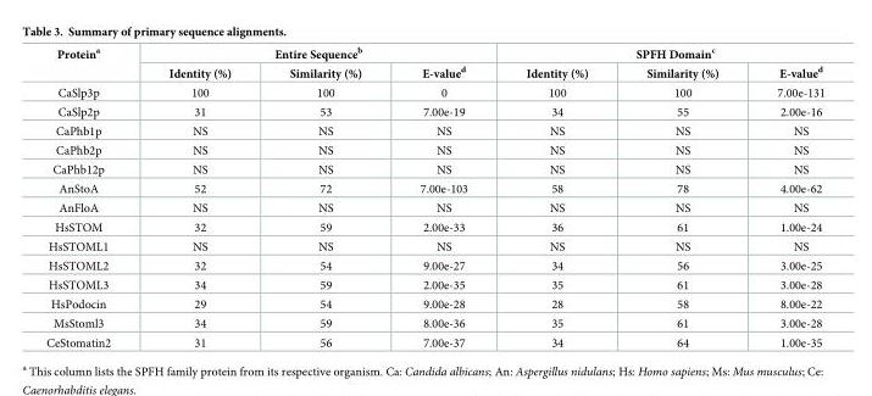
<table><thead><tr><td rowspan="2">Protein<sup>a</sup></td><td colspan="3">Entire Sequence<sup>b</sup></td><td colspan="3">SPFH Domain<sup>c</sup></td></tr><tr><td>Identity (%)</td><td>Similarity (%)</td><td>E-value<sup>d</sup></td><td>Identity (%)</td><td>Similarity (%)</td><td>E-value<sup>d</sup></td></tr></thead><tbody><tr><td>CaSlp3p</td><td>100</td><td>100</td><td>0</td><td>100</td><td>100</td><td>7.00e-131</td></tr><tr><td>CaSlp2p</td><td>31</td><td>53</td><td>7.00e-19</td><td>34</td><td>55</td><td>2.00e-16</td></tr><tr><td>CaPhb1p</td><td>NS</td><td>NS</td><td>NS</td><td>NS</td><td>NS</td><td>NS</td></tr><tr><td>CaPhb2p</td><td>NS</td><td>NS</td><td>NS</td><td>NS</td><td>NS</td><td>NS</td></tr><tr><td>CaPhb12p</td><td>NS</td><td>NS</td><td>NS</td><td>NS</td><td>NS</td><td>NS</td></tr><tr><td>AnStoA</td><td>52</td><td>72</td><td>7.00e-103</td><td>58</td><td>78</td><td>4.00e-62</td></tr><tr><td>AnFloA</td><td>NS</td><td>NS</td><td>NS</td><td>NS</td><td>NS</td><td>NS</td></tr><tr><td>HsSTOM</td><td>32</td><td>59</td><td>2.00e-33</td><td>36</td><td>61</td><td>1.00e-24</td></tr><tr><td>HsSTOML1</td><td>NS</td><td>NS</td><td>NS</td><td>NS</td><td>NS</td><td>NS</td></tr><tr><td>HsSTOML2</td><td>32</td><td>54</td><td>9.00e-27</td><td>34</td><td>56</td><td>3.00e-25</td></tr><tr><td>HsSTOML3</td><td>34</td><td>59</td><td>2.00e-35</td><td>35</td><td>61</td><td>3.00e-28</td></tr><tr><td>HsPodocin</td><td>29</td><td>54</td><td>9.00e-28</td><td>28</td><td>58</td><td>8.00e-22</td></tr><tr><td>MsStoml3</td><td>34</td><td>59</td><td>8.00e-36</td><td>35</td><td>61</td><td>3.00e-28</td></tr><tr><td>CeStomatin2</td><td>31</td><td>56</td><td>7.00e-37</td><td>34</td><td>64</td><td>1.00e-35</td></tr></tbody></table>